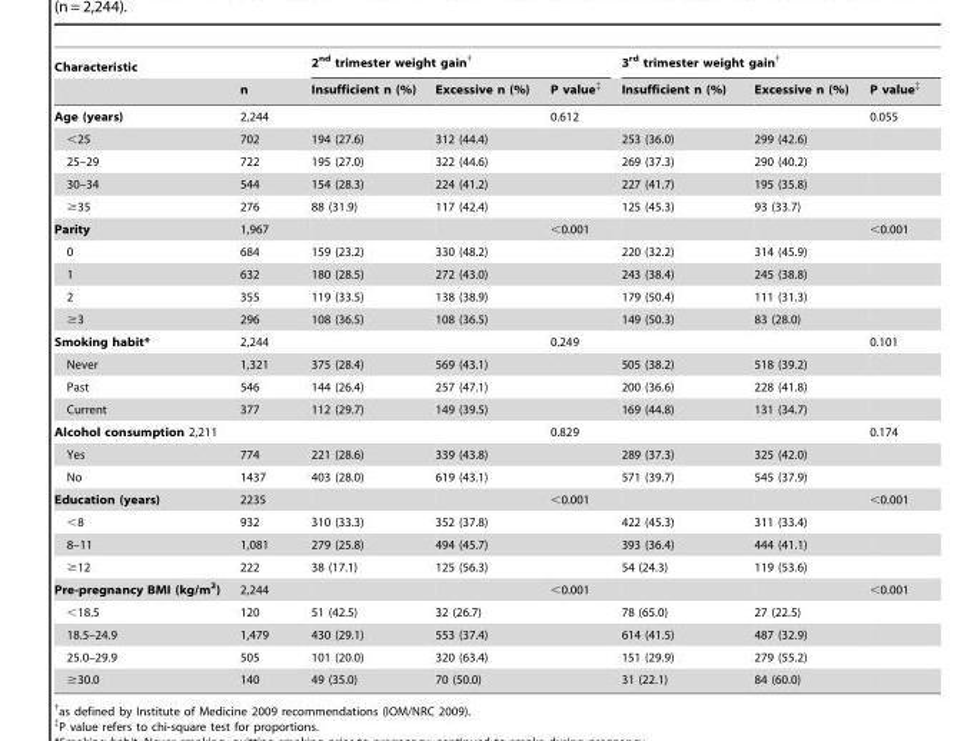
<table><thead><tr><td rowspan="2">Characteristic</td><td rowspan="2">n</td><td colspan="3">2<sup>nd</sup> trimester weight gain†</td><td colspan="3">3<sup>rd</sup> trimester weight gain†</td></tr><tr><td>Insufficient n (%)</td><td>Excessive n (%)</td><td>P value‡</td><td>Insufficient n (%)</td><td>Excessive n (%)</td><td>P value‡</td></tr></thead><tbody><tr><td>Age (years)</td><td>2,244</td><td></td><td></td><td>0.612</td><td></td><td></td><td>0.055</td></tr><tr><td>&lt;25</td><td>702</td><td>194 (27.6)</td><td>312 (44.4)</td><td></td><td>253 (36.0)</td><td>299 (42.6)</td><td></td></tr><tr><td>25–29</td><td>722</td><td>195 (27.0)</td><td>322 (44.6)</td><td></td><td>269 (37.3)</td><td>290 (40.2)</td><td></td></tr><tr><td>30–34</td><td>544</td><td>154 (28.3)</td><td>224 (41.2)</td><td></td><td>227 (41.7)</td><td>195 (35.8)</td><td></td></tr><tr><td>≥35</td><td>276</td><td>88 (31.9)</td><td>117 (42.4)</td><td></td><td>125 (45.3)</td><td>93 (33.7)</td><td></td></tr><tr><td>Parity</td><td>1,967</td><td></td><td></td><td>&lt;0.001</td><td></td><td></td><td>&lt;0.001</td></tr><tr><td>0</td><td>684</td><td>159 (23.2)</td><td>330 (48.2)</td><td></td><td>220 (32.2)</td><td>314 (45.9)</td><td></td></tr><tr><td>1</td><td>632</td><td>180 (28.5)</td><td>272 (43.0)</td><td></td><td>243 (38.4)</td><td>245 (38.8)</td><td></td></tr><tr><td>2</td><td>355</td><td>119 (33.5)</td><td>138 (38.9)</td><td></td><td>179 (50.4)</td><td>111 (31.3)</td><td></td></tr><tr><td>≥3</td><td>296</td><td>108 (36.5)</td><td>108 (36.5)</td><td></td><td>149 (50.3)</td><td>83 (28.0)</td><td></td></tr><tr><td>Smoking habit*</td><td>2,244</td><td></td><td></td><td>0.249</td><td></td><td></td><td>0.101</td></tr><tr><td>Never</td><td>1,321</td><td>375 (28.4)</td><td>569 (43.1)</td><td></td><td>505 (38.2)</td><td>518 (39.2)</td><td></td></tr><tr><td>Past</td><td>546</td><td>144 (26.4)</td><td>257 (47.1)</td><td></td><td>200 (36.6)</td><td>228 (41.8)</td><td></td></tr><tr><td>Current</td><td>377</td><td>112 (29.7)</td><td>149 (39.5)</td><td></td><td>169 (44.8)</td><td>131 (34.7)</td><td></td></tr><tr><td colspan="2">Alcohol consumption 2,211</td><td></td><td></td><td>0.829</td><td></td><td></td><td>0.174</td></tr><tr><td>Yes</td><td>774</td><td>221 (28.6)</td><td>339 (43.8)</td><td></td><td>289 (37.3)</td><td>325 (42.0)</td><td></td></tr><tr><td>No</td><td>1437</td><td>403 (28.0)</td><td>619 (43.1)</td><td></td><td>571 (39.7)</td><td>545 (37.9)</td><td></td></tr><tr><td>Education (years)</td><td>2235</td><td></td><td></td><td>&lt;0.001</td><td></td><td></td><td>&lt;0.001</td></tr><tr><td>&lt;8</td><td>932</td><td>310 (33.3)</td><td>352 (37.8)</td><td></td><td>422 (45.3)</td><td>311 (33.4)</td><td></td></tr><tr><td>8–11</td><td>1,081</td><td>279 (25.8)</td><td>494 (45.7)</td><td></td><td>393 (36.4)</td><td>444 (41.1)</td><td></td></tr><tr><td>≥12</td><td>222</td><td>38 (17.1)</td><td>125 (56.3)</td><td></td><td>54 (24.3)</td><td>119 (53.6)</td><td></td></tr><tr><td>Pre-pregnancy BMI (kg/m<sup>2</sup>)</td><td>2,244</td><td></td><td></td><td>&lt;0.001</td><td></td><td></td><td>&lt;0.001</td></tr><tr><td>&lt;18.5</td><td>120</td><td>51 (42.5)</td><td>32 (26.7)</td><td></td><td>78 (65.0)</td><td>27 (22.5)</td><td></td></tr><tr><td>18.5–24.9</td><td>1,479</td><td>430 (29.1)</td><td>553 (37.4)</td><td></td><td>614 (41.5)</td><td>487 (32.9)</td><td></td></tr><tr><td>25.0–29.9</td><td>505</td><td>101 (20.0)</td><td>320 (63.4)</td><td></td><td>151 (29.9)</td><td>279 (55.2)</td><td></td></tr><tr><td>≥30.0</td><td>140</td><td>49 (35.0)</td><td>70 (50.0)</td><td></td><td>31 (22.1)</td><td>84 (60.0)</td><td></td></tr></tbody></table>